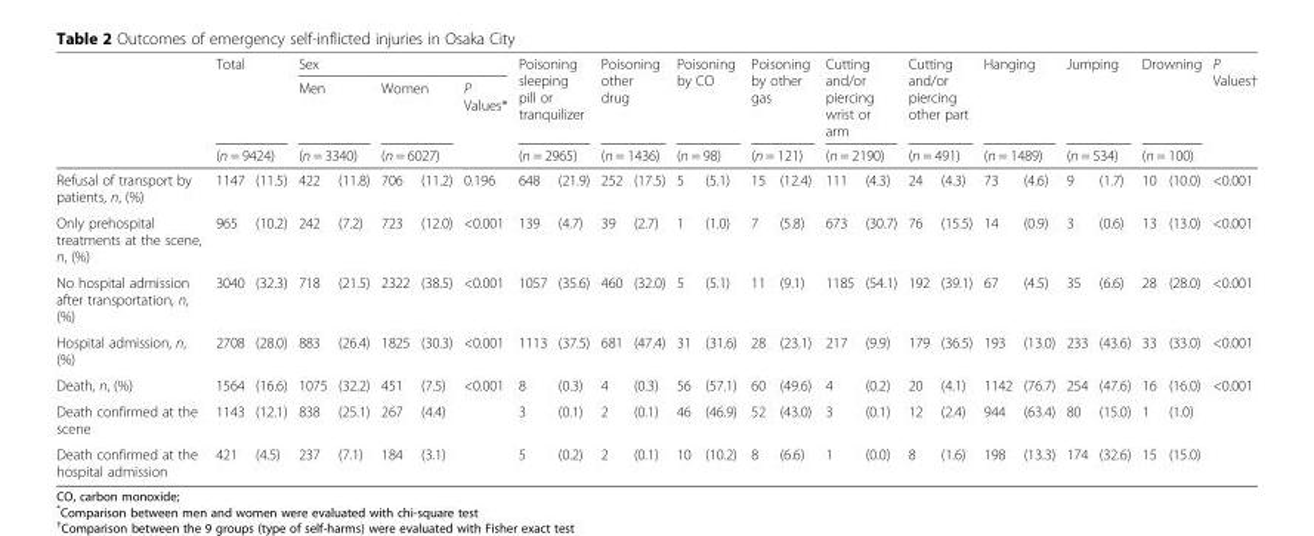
<table><thead><tr><td rowspan="4">Refusal of transport by patients, n, (%)</td><td rowspan="3" colspan="2">Total (n = 9424)</td><td colspan="5">Sex</td><td rowspan="3" colspan="2">Poisoning sleeping pill or tranquilizer (n = 2965)</td><td rowspan="3" colspan="2">Poisoning other drug (n = 1436)</td><td rowspan="3" colspan="2">Poisoning by CO (n = 98)</td><td rowspan="3" colspan="2">Poisoning by other gas (n = 121)</td><td rowspan="3" colspan="2">Cutting and/or piercing wrist or arm (n = 2190)</td><td rowspan="3" colspan="2">Cutting and/or piercing other part (n = 491)</td><td rowspan="3" colspan="2">Hanging (n = 1489)</td><td rowspan="3" colspan="2">Jumping (n = 534)</td><td rowspan="3" colspan="2">Drowning (n = 100)</td><td rowspan="4">P Values† &lt;0.001</td></tr><tr><td rowspan="2" colspan="2">Men (n = 3340)</td><td rowspan="2" colspan="2">Women (n = 6027)</td><td rowspan="3">P Values* 0.196</td></tr><tr></tr><tr><td>1147</td><td>(11.5)</td><td>422</td><td>(11.8)</td><td>706</td><td>(11.2)</td><td>648</td><td>(21.9)</td><td>252</td><td>(17.5)</td><td>5</td><td>(5.1)</td><td>15</td><td>(12.4)</td><td>111</td><td>(4.3)</td><td>24</td><td>(4.3)</td><td>73</td><td>(4.6)</td><td>9</td><td>(1.7)</td><td>10</td><td>(10.0)</td></tr></thead><tbody><tr><td>Only prehospital treatments at the scene, n, (%)</td><td>965</td><td>(10.2)</td><td>242</td><td>(7.2)</td><td>723</td><td>(12.0)</td><td>&lt;0.001</td><td>139</td><td>(4.7)</td><td>39</td><td>(2.7)</td><td>1</td><td>(1.0)</td><td>7</td><td>(5.8)</td><td>673</td><td>(30.7)</td><td>76</td><td>(15.5)</td><td>14</td><td>(0.9)</td><td>3</td><td>(0.6)</td><td>13</td><td>(13.0)</td><td>&lt;0.001</td></tr><tr><td>No hospital admission after transportation, n, (%)</td><td>3040</td><td>(32.3)</td><td>718</td><td>(21.5)</td><td>2322</td><td>(38.5)</td><td>&lt;0.001</td><td>1057</td><td>(35.6)</td><td>460</td><td>(32.0)</td><td>5</td><td>(5.1)</td><td>11</td><td>(9.1)</td><td>1185</td><td>(54.1)</td><td>192</td><td>(39.1)</td><td>67</td><td>(4.5)</td><td>35</td><td>(6.6)</td><td>28</td><td>(28.0)</td><td>&lt;0.001</td></tr><tr><td>Hospital admission, n, (%)</td><td>2708</td><td>(28.0)</td><td>883</td><td>(26.4)</td><td>1825</td><td>(30.3)</td><td>&lt;0.001</td><td>1113</td><td>(37.5)</td><td>681</td><td>(47.4)</td><td>31</td><td>(31.6)</td><td>28</td><td>(23.1)</td><td>217</td><td>(9.9)</td><td>179</td><td>(36.5)</td><td>193</td><td>(13.0)</td><td>233</td><td>(43.6)</td><td>33</td><td>(33.0)</td><td>&lt;0.001</td></tr><tr><td>Death, n, (%)</td><td>1564</td><td>(16.6)</td><td>1075</td><td>(32.2)</td><td>451</td><td>(7.5)</td><td>&lt;0.001</td><td>8</td><td>(0.3)</td><td>4</td><td>(0.3)</td><td>56</td><td>(57.1)</td><td>60</td><td>(49.6)</td><td>4</td><td>(0.2)</td><td>20</td><td>(4.1)</td><td>1142</td><td>(76.7)</td><td>254</td><td>(47.6)</td><td>16</td><td>(16.0)</td><td>&lt;0.001</td></tr><tr><td>Death confirmed at the scene</td><td>1143</td><td>(12.1)</td><td>838</td><td>(25.1)</td><td>267</td><td>(4.4)</td><td></td><td>3</td><td>(0.1)</td><td>2</td><td>(0.1)</td><td>46</td><td>(46.9)</td><td>52</td><td>(43.0)</td><td>3</td><td>(0.1)</td><td>12</td><td>(2.4)</td><td>944</td><td>(63.4)</td><td>80</td><td>(15.0)</td><td>1</td><td>(1.0)</td><td></td></tr><tr><td>Death confirmed at the hospital admission</td><td>421</td><td>(4.5)</td><td>237</td><td>(7.1)</td><td>184</td><td>(3.1)</td><td></td><td>5</td><td>(0.2)</td><td>2</td><td>(0.1)</td><td>10</td><td>(10.2)</td><td>8</td><td>(6.6)</td><td>1</td><td>(0.0)</td><td>8</td><td>(1.6)</td><td>198</td><td>(13.3)</td><td>174</td><td>(32.6)</td><td>15</td><td>(15.0)</td><td></td></tr></tbody></table>